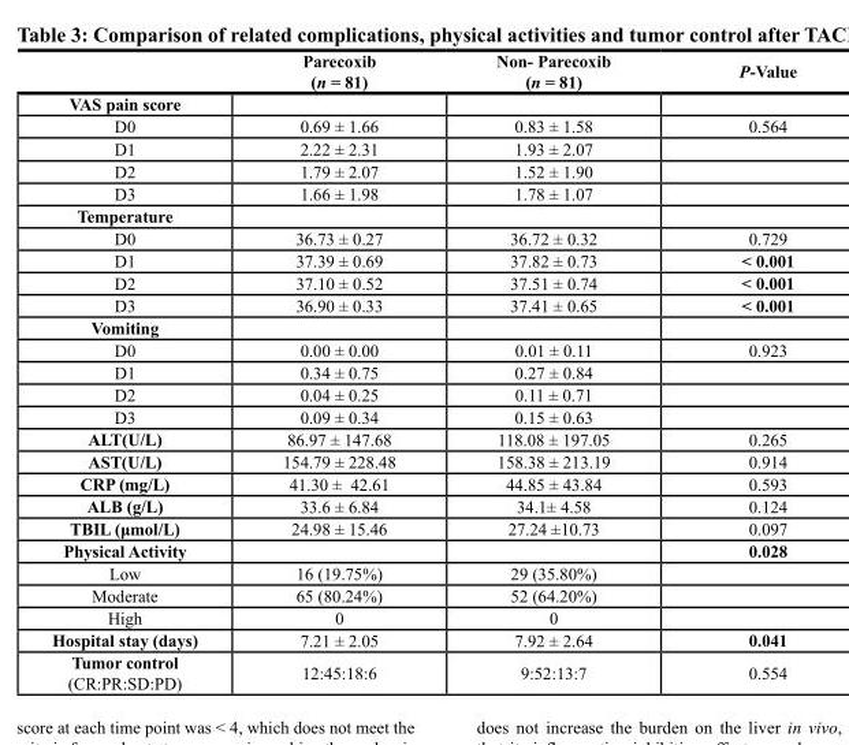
<table><thead><tr><td></td><td>Parecoxib (n = 81)</td><td>Non- Parecoxib (n = 81)</td><td>P-Value</td></tr></thead><tbody><tr><td colspan="4">VAS pain score</td></tr><tr><td>D0</td><td>0.69 ± 1.66</td><td>0.83 ± 1.58</td><td>0.564</td></tr><tr><td>D1</td><td>2.22 ± 2.31</td><td>1.93 ± 2.07</td><td></td></tr><tr><td>D2</td><td>1.79 ± 2.07</td><td>1.52 ± 1.90</td><td></td></tr><tr><td>D3</td><td>1.66 ± 1.98</td><td>1.78 ± 1.07</td><td></td></tr><tr><td colspan="4">Temperature</td></tr><tr><td>D0</td><td>36.73 ± 0.27</td><td>36.72 ± 0.32</td><td>0.729</td></tr><tr><td>D1</td><td>37.39 ± 0.69</td><td>37.82 ± 0.73</td><td>&lt; 0.001</td></tr><tr><td>D2</td><td>37.10 ± 0.52</td><td>37.51 ± 0.74</td><td>&lt; 0.001</td></tr><tr><td>D3</td><td>36.90 ± 0.33</td><td>37.41 ± 0.65</td><td>&lt; 0.001</td></tr><tr><td colspan="4">Vomiting</td></tr><tr><td>D0</td><td>0.00 ± 0.00</td><td>0.01 ± 0.11</td><td>0.923</td></tr><tr><td>D1</td><td>0.34 ± 0.75</td><td>0.27 ± 0.84</td><td></td></tr><tr><td>D2</td><td>0.04 ± 0.25</td><td>0.11 ± 0.71</td><td></td></tr><tr><td>D3</td><td>0.09 ± 0.34</td><td>0.15 ± 0.63</td><td></td></tr><tr><td>ALT(U/L)</td><td>86.97 ± 147.68</td><td>118.08 ± 197.05</td><td>0.265</td></tr><tr><td>AST(U/L)</td><td>154.79 ± 228.48</td><td>158.38 ± 213.19</td><td>0.914</td></tr><tr><td>CRP (mg/L)</td><td>41.30 ± 42.61</td><td>44.85 ± 43.84</td><td>0.593</td></tr><tr><td>ALB (g/L)</td><td>33.6 ± 6.84</td><td>34.1± 4.58</td><td>0.124</td></tr><tr><td>TBIL (μmol/L)</td><td>24.98 ± 15.46</td><td>27.24 ±10.73</td><td>0.097</td></tr><tr><td>Physical Activity</td><td></td><td></td><td>0.028</td></tr><tr><td>Low</td><td>16 (19.75%)</td><td>29 (35.80%)</td><td></td></tr><tr><td>Moderate</td><td>65 (80.24%)</td><td>52 (64.20%)</td><td></td></tr><tr><td>High</td><td>0</td><td>0</td><td></td></tr><tr><td>Hospital stay (days)</td><td>7.21 ± 2.05</td><td>7.92 ± 2.64</td><td>0.041</td></tr><tr><td>Tumor control (CR:PR:SD:PD)</td><td>12:45:18:6</td><td>9:52:13:7</td><td>0.554</td></tr></tbody></table>